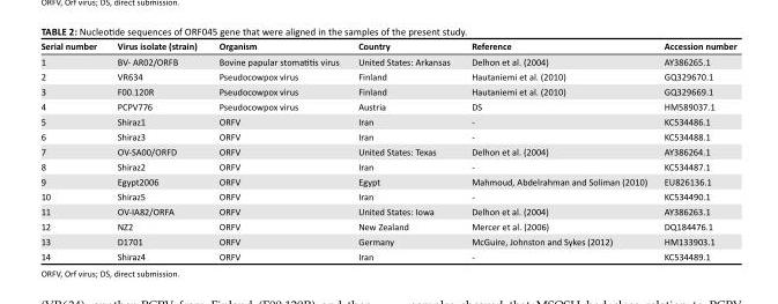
<table><thead><tr><td>Serial number</td><td>Virus isolate (strain)</td><td>Organism</td><td>Country</td><td>Reference</td><td>Accession number</td></tr></thead><tbody><tr><td>1</td><td>BV- AR02/ORFB</td><td>Bovine papular stomatitis virus</td><td>United States: Arkansas</td><td>Delhon et al. (2004)</td><td>AY386265.1</td></tr><tr><td>2</td><td>VR634</td><td>Pseudocowpox virus</td><td>Finland</td><td>Hautaniemi et al. (2010)</td><td>GQ329670.1</td></tr><tr><td>3</td><td>F00.120R</td><td>Pseudocowpox virus</td><td>Finland</td><td>Hautaniemi et al. (2010)</td><td>GQ329669.1</td></tr><tr><td>4</td><td>PCPV776</td><td>Pseudocowpox virus</td><td>Austria</td><td>DS</td><td>HM589037.1</td></tr><tr><td>5</td><td>Shiraz1</td><td>ORFV</td><td>Iran</td><td>-</td><td>KC534486.1</td></tr><tr><td>6</td><td>Shiraz3</td><td>ORFV</td><td>Iran</td><td>-</td><td>KC534488.1</td></tr><tr><td>7</td><td>OV-SA00/ORFD</td><td>ORFV</td><td>United States: Texas</td><td>Delhon et al. (2004)</td><td>AY386264.1</td></tr><tr><td>8</td><td>Shiraz2</td><td>ORFV</td><td>Iran</td><td>-</td><td>KC534487.1</td></tr><tr><td>9</td><td>Egypt2006</td><td>ORFV</td><td>Egypt</td><td>Mahmoud, Abdelrahman and Soliman (2010)</td><td>EU826136.1</td></tr><tr><td>10</td><td>Shiraz5</td><td>ORFV</td><td>Iran</td><td>-</td><td>KC534490.1</td></tr><tr><td>11</td><td>OV-IA82/ORFA</td><td>ORFV</td><td>United States: Iowa</td><td>Delhon et al. (2004)</td><td>AY386263.1</td></tr><tr><td>12</td><td>NZ2</td><td>ORFV</td><td>New Zealand</td><td>Mercer et al. (2006)</td><td>DQ184476.1</td></tr><tr><td>13</td><td>D1701</td><td>ORFV</td><td>Germany</td><td>McGuire, Johnston and Sykes (2012)</td><td>HM133903.1</td></tr><tr><td>14</td><td>Shiraz4</td><td>ORFV</td><td>Iran</td><td>-</td><td>KC534489.1</td></tr></tbody></table>